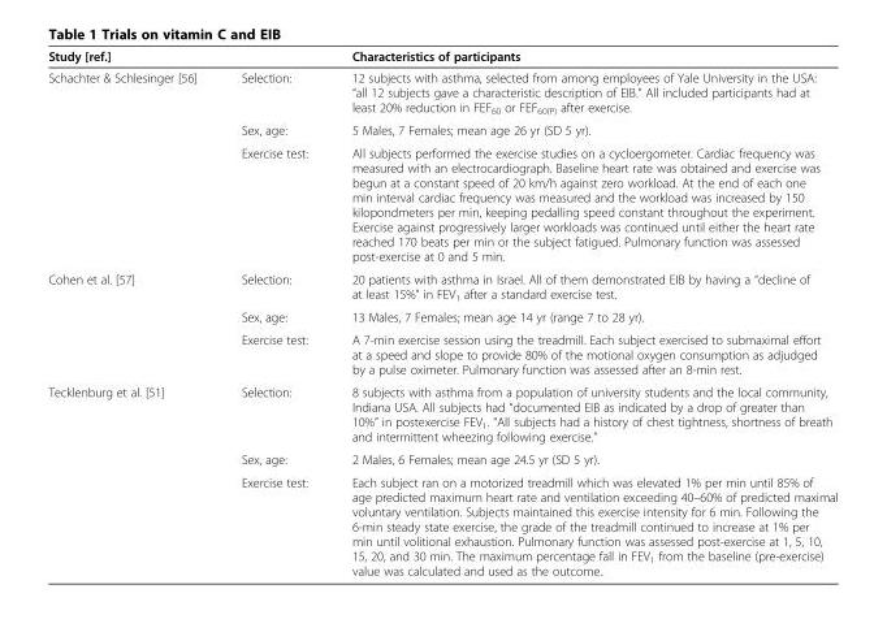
<table><thead><tr><td>Study [ref.]</td><td></td><td>Characteristics of participants</td></tr></thead><tbody><tr><td rowspan="3">Schachter &amp; Schlesinger [56]</td><td>Selection:</td><td>12 subjects with asthma, selected from among employees of Yale University in the USA: “all 12 subjects gave a characteristic description of EIB.” All included participants had at least 20% reduction in FEF<sub>60</sub> or FEF<sub>60(P)</sub> after exercise.</td></tr><tr><td>Sex, age:</td><td>5 Males, 7 Females; mean age 26 yr (SD 5 yr).</td></tr><tr><td>Exercise test:</td><td>All subjects performed the exercise studies on a cycloergometer. Cardiac frequency was measured with an electrocardiograph. Baseline heart rate was obtained and exercise was begun at a constant speed of 20 km/h against zero workload. At the end of each one min interval cardiac frequency was measured and the workload was increased by 150 kilopondmeters per min, keeping pedalling speed constant throughout the experiment. Exercise against progressively larger workloads was continued until either the heart rate reached 170 beats per min or the subject fatigued. Pulmonary function was assessed post-exercise at 0 and 5 min.</td></tr><tr><td rowspan="3">Cohen et al. [57]</td><td>Selection:</td><td>20 patients with asthma in Israel. All of them demonstrated EIB by having a “decline of at least 15%” in FEV<sub>1</sub> after a standard exercise test.</td></tr><tr><td>Sex, age:</td><td>13 Males, 7 Females; mean age 14 yr (range 7 to 28 yr).</td></tr><tr><td>Exercise test:</td><td>A 7-min exercise session using the treadmill. Each subject exercised to submaximal effort at a speed and slope to provide 80% of the motional oxygen consumption as adjudged by a pulse oximeter. Pulmonary function was assessed after an 8-min rest.</td></tr><tr><td rowspan="3">Tecklenburg et al. [51]</td><td>Selection:</td><td>8 subjects with asthma from a population of university students and the local community, Indiana USA. All subjects had “documented EIB as indicated by a drop of greater than 10%” in postexercise FEV<sub>1</sub>. “All subjects had a history of chest tightness, shortness of breath and intermittent wheezing following exercise.”</td></tr><tr><td>Sex, age:</td><td>2 Males, 6 Females; mean age 24.5 yr (SD 5 yr).</td></tr><tr><td>Exercise test:</td><td>Each subject ran on a motorized treadmill which was elevated 1% per min until 85% of age predicted maximum heart rate and ventilation exceeding 40–60% of predicted maximal voluntary ventilation. Subjects maintained this exercise intensity for 6 min. Following the 6-min steady state exercise, the grade of the treadmill continued to increase at 1% per min until volitional exhaustion. Pulmonary function was assessed post-exercise at 1, 5, 10, 15, 20, and 30 min. The maximum percentage fall in FEV<sub>1</sub> from the baseline (pre-exercise) value was calculated and used as the outcome.</td></tr></tbody></table>